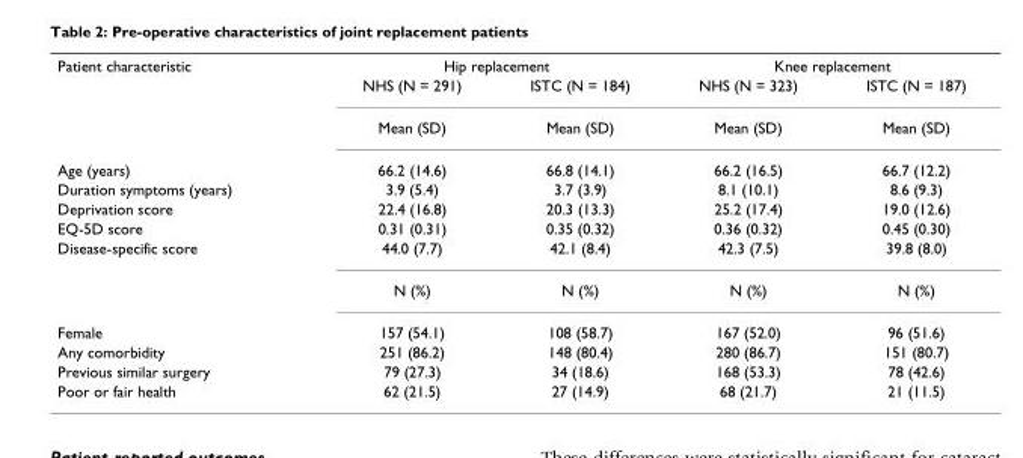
<table><tbody><tr><td rowspan="3">Patient characteristic</td><td colspan="2">Hip replacement</td><td colspan="2">Knee replacement</td></tr><tr><td>NHS (N = 291)</td><td>ISTC (N = 184)</td><td>NHS (N = 323)</td><td>ISTC (N = 187)</td></tr><tr><td>Mean (SD)</td><td>Mean (SD)</td><td>Mean (SD)</td><td>Mean (SD)</td></tr><tr><td>Age (years)</td><td>66.2 (14.6)</td><td>66.8 (14.1)</td><td>66.2 (16.5)</td><td>66.7 (12.2)</td></tr><tr><td>Duration symptoms (years)</td><td>3.9 (5.4)</td><td>3.7 (3.9)</td><td>8.1 (10.1)</td><td>8.6 (9.3)</td></tr><tr><td>Deprivation score</td><td>22.4 (16.8)</td><td>20.3 (13.3)</td><td>25.2 (17.4)</td><td>19.0 (12.6)</td></tr><tr><td>EQ-5D score</td><td>0.31 (0.31)</td><td>0.35 (0.32)</td><td>0.36 (0.32)</td><td>0.45 (0.30)</td></tr><tr><td rowspan="2">Disease-specific score</td><td>44.0 (7.7)</td><td>42.1 (8.4)</td><td>42.3 (7.5)</td><td>39.8 (8.0)</td></tr><tr><td>N (%)</td><td>N (%)</td><td>N (%)</td><td>N (%)</td></tr><tr><td>Female</td><td>157 (54.1)</td><td>108 (58.7)</td><td>167 (52.0)</td><td>96 (51.6)</td></tr><tr><td>Any comorbidity</td><td>251 (86.2)</td><td>148 (80.4)</td><td>280 (86.7)</td><td>151 (80.7)</td></tr><tr><td>Previous similar surgery</td><td>79 (27.3)</td><td>34 (18.6)</td><td>168 (53.3)</td><td>78 (42.6)</td></tr><tr><td>Poor or fair health</td><td>62 (21.5)</td><td>27 (14.9)</td><td>68 (21.7)</td><td>21 (11.5)</td></tr></tbody></table>